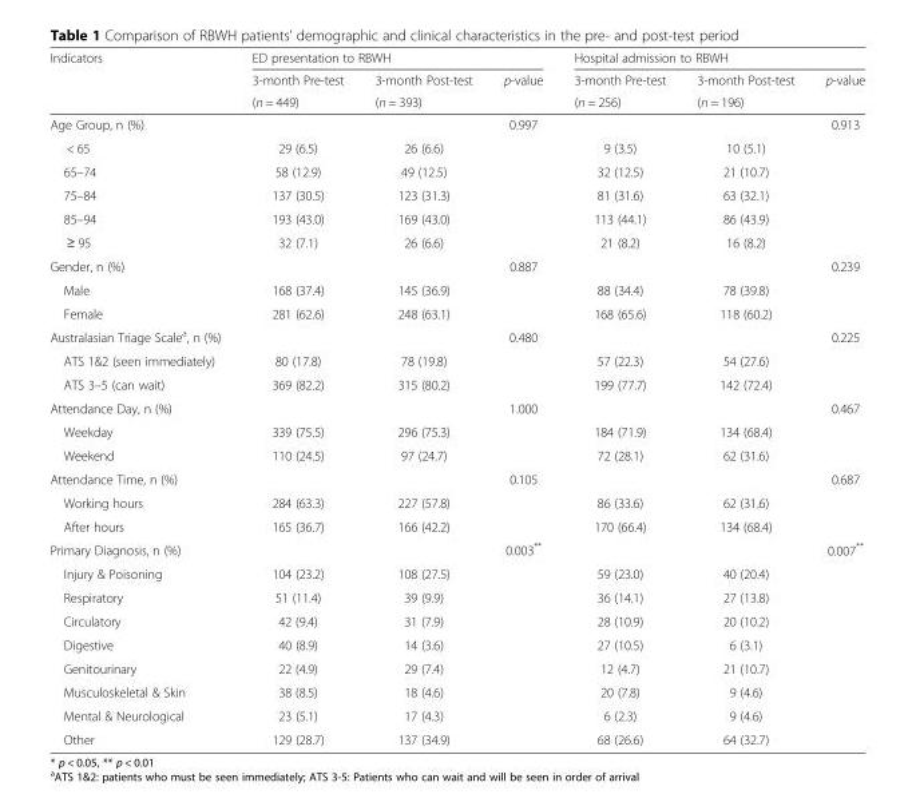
<table><thead><tr><td rowspan="3">Indicators</td><td colspan="3">ED presentation to RBWH</td><td colspan="3">Hospital admission to RBWH</td></tr><tr><td rowspan="2">3-month Pre-test (n = 449)</td><td rowspan="2">3-month Post-test (n = 393)</td><td rowspan="2">p-value</td><td rowspan="2">3-month Pre-test (n = 256)</td><td rowspan="2">3-month Post-test (n = 196)</td><td rowspan="2">p-value</td></tr><tr></tr></thead><tbody><tr><td>Age Group, n (%)</td><td></td><td></td><td>0.997</td><td></td><td></td><td>0.913</td></tr><tr><td>&lt; 65</td><td>29 (6.5)</td><td>26 (6.6)</td><td></td><td>9 (3.5)</td><td>10 (5.1)</td><td></td></tr><tr><td>65–74</td><td>58 (12.9)</td><td>49 (12.5)</td><td></td><td>32 (12.5)</td><td>21 (10.7)</td><td></td></tr><tr><td>75–84</td><td>137 (30.5)</td><td>123 (31.3)</td><td></td><td>81 (31.6)</td><td>63 (32.1)</td><td></td></tr><tr><td>85–94</td><td>193 (43.0)</td><td>169 (43.0)</td><td></td><td>113 (44.1)</td><td>86 (43.9)</td><td></td></tr><tr><td>≥ 95</td><td>32 (7.1)</td><td>26 (6.6)</td><td></td><td>21 (8.2)</td><td>16 (8.2)</td><td></td></tr><tr><td>Gender, n (%)</td><td></td><td></td><td>0.887</td><td></td><td></td><td>0.239</td></tr><tr><td>Male</td><td>168 (37.4)</td><td>145 (36.9)</td><td></td><td>88 (34.4)</td><td>78 (39.8)</td><td></td></tr><tr><td>Female</td><td>281 (62.6)</td><td>248 (63.1)</td><td></td><td>168 (65.6)</td><td>118 (60.2)</td><td></td></tr><tr><td>Australasian Triage Scale<sup>a</sup>, n (%)</td><td></td><td></td><td>0.480</td><td></td><td></td><td>0.225</td></tr><tr><td>ATS 1&amp;2 (seen immediately)</td><td>80 (17.8)</td><td>78 (19.8)</td><td></td><td>57 (22.3)</td><td>54 (27.6)</td><td></td></tr><tr><td>ATS 3–5 (can wait)</td><td>369 (82.2)</td><td>315 (80.2)</td><td></td><td>199 (77.7)</td><td>142 (72.4)</td><td></td></tr><tr><td>Attendance Day, n (%)</td><td></td><td></td><td>1.000</td><td></td><td></td><td>0.467</td></tr><tr><td>Weekday</td><td>339 (75.5)</td><td>296 (75.3)</td><td></td><td>184 (71.9)</td><td>134 (68.4)</td><td></td></tr><tr><td>Weekend</td><td>110 (24.5)</td><td>97 (24.7)</td><td></td><td>72 (28.1)</td><td>62 (31.6)</td><td></td></tr><tr><td>Attendance Time, n (%)</td><td></td><td></td><td>0.105</td><td></td><td></td><td>0.687</td></tr><tr><td>Working hours</td><td>284 (63.3)</td><td>227 (57.8)</td><td></td><td>86 (33.6)</td><td>62 (31.6)</td><td></td></tr><tr><td>After hours</td><td>165 (36.7)</td><td>166 (42.2)</td><td></td><td>170 (66.4)</td><td>134 (68.4)</td><td></td></tr><tr><td>Primary Diagnosis, n (%)</td><td></td><td></td><td>0.003**</td><td></td><td></td><td>0.007**</td></tr><tr><td>Injury &amp; Poisoning</td><td>104 (23.2)</td><td>108 (27.5)</td><td></td><td>59 (23.0)</td><td>40 (20.4)</td><td></td></tr><tr><td>Respiratory</td><td>51 (11.4)</td><td>39 (9.9)</td><td></td><td>36 (14.1)</td><td>27 (13.8)</td><td></td></tr><tr><td>Circulatory</td><td>42 (9.4)</td><td>31 (7.9)</td><td></td><td>28 (10.9)</td><td>20 (10.2)</td><td></td></tr><tr><td>Digestive</td><td>40 (8.9)</td><td>14 (3.6)</td><td></td><td>27 (10.5)</td><td>6 (3.1)</td><td></td></tr><tr><td>Genitourinary</td><td>22 (4.9)</td><td>29 (7.4)</td><td></td><td>12 (4.7)</td><td>21 (10.7)</td><td></td></tr><tr><td>Musculoskeletal &amp; Skin</td><td>38 (8.5)</td><td>18 (4.6)</td><td></td><td>20 (7.8)</td><td>9 (4.6)</td><td></td></tr><tr><td>Mental &amp; Neurological</td><td>23 (5.1)</td><td>17 (4.3)</td><td></td><td>6 (2.3)</td><td>9 (4.6)</td><td></td></tr><tr><td>Other</td><td>129 (28.7)</td><td>137 (34.9)</td><td></td><td>68 (26.6)</td><td>64 (32.7)</td><td></td></tr></tbody></table>